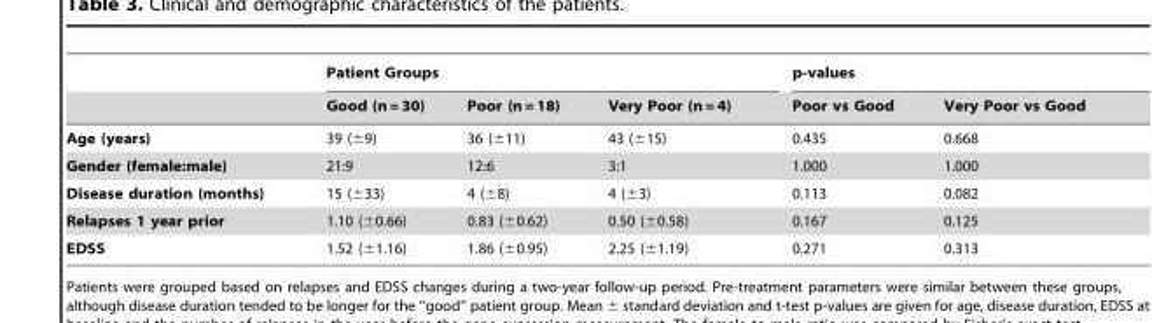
<table><thead><tr><td rowspan="2"></td><td colspan="3">Patient Groups</td><td colspan="2">p-values</td></tr><tr><td>Good (n = 30)</td><td>Poor (n = 18)</td><td>Very Poor (n = 4)</td><td>Poor vs Good</td><td>Very Poor vs Good</td></tr></thead><tbody><tr><td>Age (years)</td><td>39 (±9)</td><td>36 (±11)</td><td>43 (±15)</td><td>0.435</td><td>0.668</td></tr><tr><td>Gender (female:male)</td><td>21:9</td><td>12:6</td><td>3:1</td><td>1.000</td><td>1.000</td></tr><tr><td>Disease duration (months)</td><td>15 (±33)</td><td>4 (±8)</td><td>4 (±3)</td><td>0.113</td><td>0.082</td></tr><tr><td>Relapses 1 year prior</td><td>1.10 (±0.66)</td><td>0.83 (±0.62)</td><td>0.50 (±0.58)</td><td>0.167</td><td>0.125</td></tr><tr><td>EDSS</td><td>1.52 (±1.16)</td><td>1.86 (±0.95)</td><td>2.25 (±1.19)</td><td>0.271</td><td>0.313</td></tr></tbody></table>